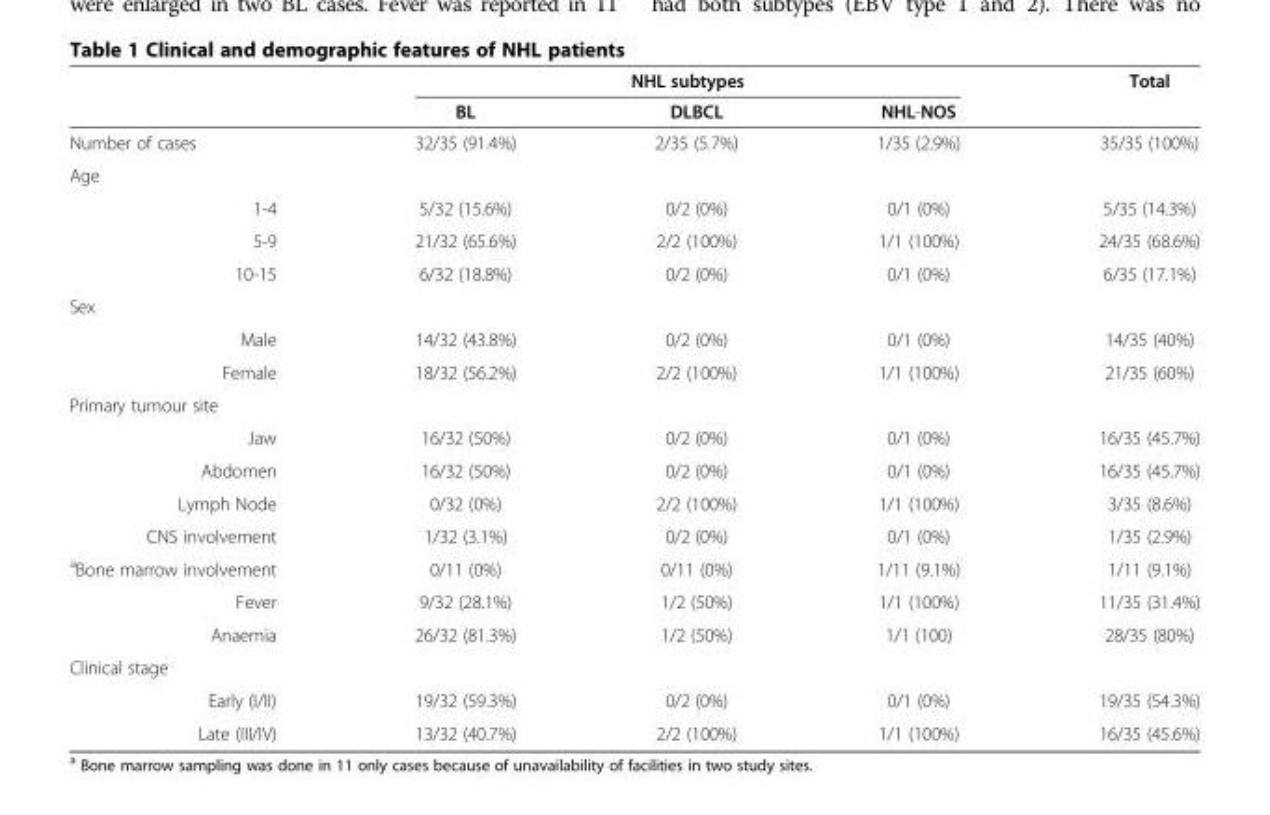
<table><thead><tr><td rowspan="2"></td><td colspan="3">NHL subtypes</td><td rowspan="2">Total</td></tr><tr><td>BL</td><td>DLBCL</td><td>NHL-NOS</td></tr></thead><tbody><tr><td>Number of cases</td><td>32/35 (91.4%)</td><td>2/35 (5.7%)</td><td>1/35 (2.9%)</td><td>35/35 (100%)</td></tr><tr><td colspan="5">Age</td></tr><tr><td>1-4</td><td>5/32 (15.6%)</td><td>0/2 (0%)</td><td>0/1 (0%)</td><td>5/35 (14.3%)</td></tr><tr><td>5-9</td><td>21/32 (65.6%)</td><td>2/2 (100%)</td><td>1/1 (100%)</td><td>24/35 (68.6%)</td></tr><tr><td>10-15</td><td>6/32 (18.8%)</td><td>0/2 (0%)</td><td>0/1 (0%)</td><td>6/35 (17.1%)</td></tr><tr><td colspan="5">Sex</td></tr><tr><td>Male</td><td>14/32 (43.8%)</td><td>0/2 (0%)</td><td>0/1 (0%)</td><td>14/35 (40%)</td></tr><tr><td>Female</td><td>18/32 (56.2%)</td><td>2/2 (100%)</td><td>1/1 (100%)</td><td>21/35 (60%)</td></tr><tr><td colspan="5">Primary tumour site</td></tr><tr><td>Jaw</td><td>16/32 (50%)</td><td>0/2 (0%)</td><td>0/1 (0%)</td><td>16/35 (45.7%)</td></tr><tr><td>Abdomen</td><td>16/32 (50%)</td><td>0/2 (0%)</td><td>0/1 (0%)</td><td>16/35 (45.7%)</td></tr><tr><td>Lymph Node</td><td>0/32 (0%)</td><td>2/2 (100%)</td><td>1/1 (100%)</td><td>3/35 (8.6%)</td></tr><tr><td>CNS involvement</td><td>1/32 (3.1%)</td><td>0/2 (0%)</td><td>0/1 (0%)</td><td>1/35 (2.9%)</td></tr><tr><td><sup>a</sup>Bone marrow involvement</td><td>0/11 (0%)</td><td>0/11 (0%)</td><td>1/11 (9.1%)</td><td>1/11 (9.1%)</td></tr><tr><td>Fever</td><td>9/32 (28.1%)</td><td>1/2 (50%)</td><td>1/1 (100%)</td><td>11/35 (31.4%)</td></tr><tr><td>Anaemia</td><td>26/32 (81.3%)</td><td>1/2 (50%)</td><td>1/1 (100)</td><td>28/35 (80%)</td></tr><tr><td colspan="5">Clinical stage</td></tr><tr><td>Early (I/II)</td><td>19/32 (59.3%)</td><td>0/2 (0%)</td><td>0/1 (0%)</td><td>19/35 (54.3%)</td></tr><tr><td>Late (III/IV)</td><td>13/32 (40.7%)</td><td>2/2 (100%)</td><td>1/1 (100%)</td><td>16/35 (45.6%)</td></tr></tbody></table>